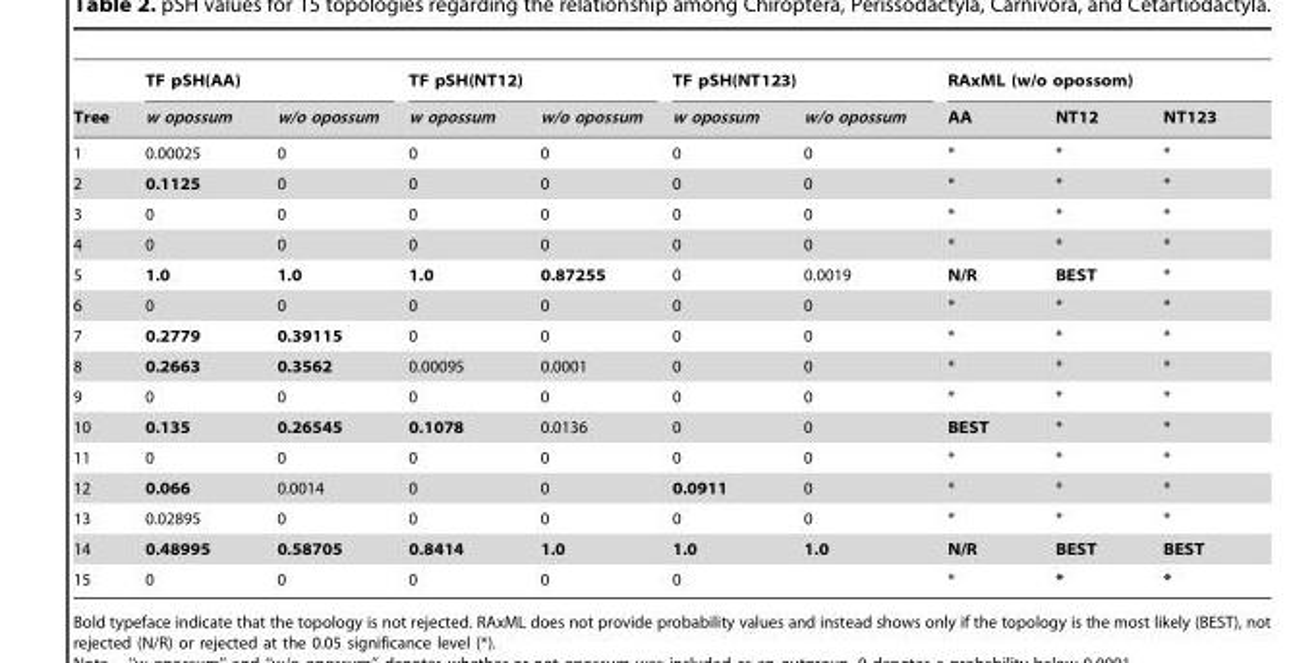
<table><thead><tr><td rowspan="2">Tree</td><td colspan="2">TF pSH(AA)</td><td colspan="2">TF pSH(NT12)</td><td colspan="2">TF pSH(NT123)</td><td colspan="3">RAxML (w/o opossom)</td></tr><tr><td>w opossum</td><td>w/o opossum</td><td>w opossum</td><td>w/o opossum</td><td>w opossum</td><td>w/o opossum</td><td>AA</td><td>NT12</td><td>NT123</td></tr></thead><tbody><tr><td>1</td><td>0.00025</td><td>0</td><td>0</td><td>0</td><td>0</td><td>0</td><td>*</td><td>*</td><td>*</td></tr><tr><td>2</td><td>0.1125</td><td>0</td><td>0</td><td>0</td><td>0</td><td>0</td><td>*</td><td>*</td><td>*</td></tr><tr><td>3</td><td>0</td><td>0</td><td>0</td><td>0</td><td>0</td><td>0</td><td>*</td><td>*</td><td>*</td></tr><tr><td>4</td><td>0</td><td>0</td><td>0</td><td>0</td><td>0</td><td>0</td><td>*</td><td>*</td><td>*</td></tr><tr><td>5</td><td>1.0</td><td>1.0</td><td>1.0</td><td>0.87255</td><td>0</td><td>0.0019</td><td>N/R</td><td>BEST</td><td>*</td></tr><tr><td>6</td><td>0</td><td>0</td><td>0</td><td>0</td><td>0</td><td>0</td><td>*</td><td>*</td><td>*</td></tr><tr><td>7</td><td>0.2779</td><td>0.39115</td><td>0</td><td>0</td><td>0</td><td>0</td><td>*</td><td>*</td><td>*</td></tr><tr><td>8</td><td>0.2663</td><td>0.3562</td><td>0.00095</td><td>0.0001</td><td>0</td><td>0</td><td>*</td><td>*</td><td>*</td></tr><tr><td>9</td><td>0</td><td>0</td><td>0</td><td>0</td><td>0</td><td>0</td><td>*</td><td>*</td><td>*</td></tr><tr><td>10</td><td>0.135</td><td>0.26545</td><td>0.1078</td><td>0.0136</td><td>0</td><td>0</td><td>BEST</td><td>*</td><td>*</td></tr><tr><td>11</td><td>0</td><td>0</td><td>0</td><td>0</td><td>0</td><td>0</td><td>*</td><td>*</td><td>*</td></tr><tr><td>12</td><td>0.066</td><td>0.0014</td><td>0</td><td>0</td><td>0.0911</td><td>0</td><td>*</td><td>*</td><td>*</td></tr><tr><td>13</td><td>0.02895</td><td>0</td><td>0</td><td>0</td><td>0</td><td>0</td><td>*</td><td>*</td><td>*</td></tr><tr><td>14</td><td>0.48995</td><td>0.58705</td><td>0.8414</td><td>1.0</td><td>1.0</td><td>1.0</td><td>N/R</td><td>BEST</td><td>BEST</td></tr><tr><td>15</td><td>0</td><td>0</td><td>0</td><td>0</td><td>0</td><td></td><td>*</td><td>*</td><td>*</td></tr></tbody></table>